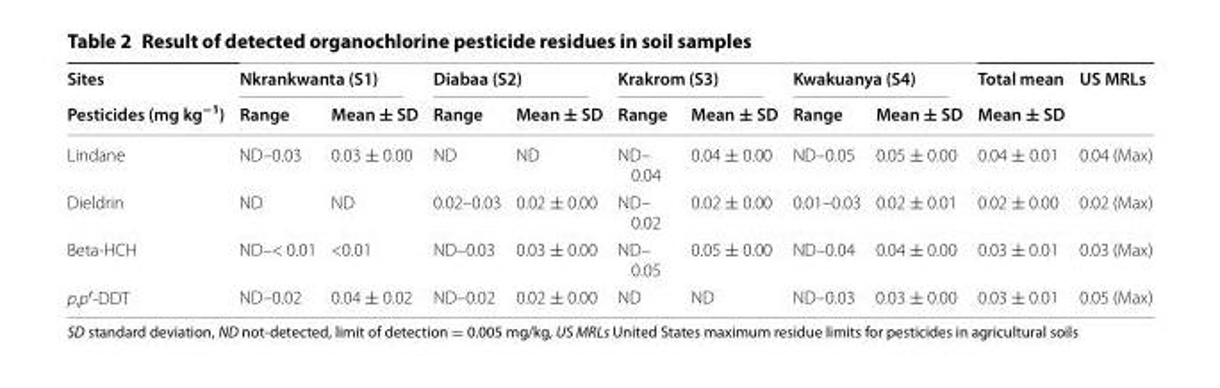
<table><thead><tr><td rowspan="2">Sites Pesticides (mg kg<sup>−1</sup>)</td><td colspan="2">Nkrankwanta (S1)</td><td colspan="2">Diabaa (S2)</td><td colspan="2">Krakrom (S3)</td><td colspan="2">Kwakuanya (S4)</td><td rowspan="2">Total mean Mean ± SD</td><td rowspan="2">US MRLs</td></tr><tr><td>Range</td><td>Mean ± SD</td><td>Range</td><td>Mean ± SD</td><td>Range</td><td>Mean ± SD</td><td>Range</td><td>Mean ± SD</td></tr></thead><tbody><tr><td>Lindane</td><td>ND–0.03</td><td>0.03 ± 0.00</td><td>ND</td><td>ND</td><td>ND– 0.04</td><td>0.04 ± 0.00</td><td>ND–0.05</td><td>0.05 ± 0.00</td><td>0.04 ± 0.01</td><td>0.04 (Max)</td></tr><tr><td>Dieldrin</td><td>ND</td><td>ND</td><td>0.02–0.03</td><td>0.02 ± 0.00</td><td>ND– 0.02</td><td>0.02 ± 0.00</td><td>0.01–0.03</td><td>0.02 ± 0.01</td><td>0.02 ± 0.00</td><td>0.02 (Max)</td></tr><tr><td>Beta‑HCH</td><td>ND–&lt; 0.01</td><td>&lt;0.01</td><td>ND–0.03</td><td>0.03 ± 0.00</td><td>ND– 0.05</td><td>0.05 ± 0.00</td><td>ND–0.04</td><td>0.04 ± 0.00</td><td>0.03 ± 0.01</td><td>0.03 (Max)</td></tr><tr><td>p,p′‑DDT</td><td>ND–0.02</td><td>0.04 ± 0.02</td><td>ND–0.02</td><td>0.02 ± 0.00</td><td>ND</td><td>ND</td><td>ND–0.03</td><td>0.03 ± 0.00</td><td>0.03 ± 0.01</td><td>0.05 (Max)</td></tr></tbody></table>